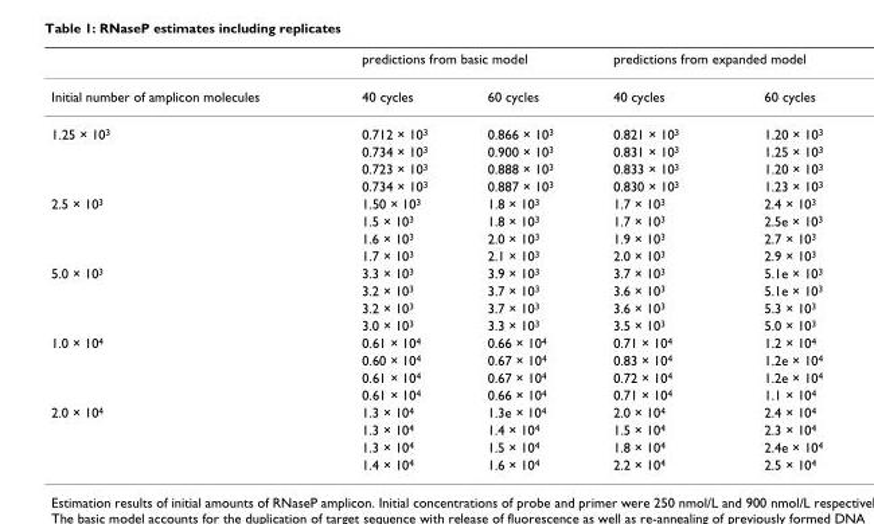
<table><thead><tr><td rowspan="2">Initial number of amplicon molecules</td><td colspan="2">predictions from basic model</td><td colspan="2">predictions from expanded model</td></tr><tr><td>40 cycles</td><td>60 cycles</td><td>40 cycles</td><td>60 cycles</td></tr></thead><tbody><tr><td rowspan="4">1.25 × 10<sup>3</sup></td><td>0.712 × 10<sup>3</sup></td><td>0.866 × 10<sup>3</sup></td><td>0.821 × 10<sup>3</sup></td><td>1.20 × 10<sup>3</sup></td></tr><tr><td>0.734 × 10<sup>3</sup></td><td>0.900 × 10<sup>3</sup></td><td>0.831 × 10<sup>3</sup></td><td>1.25 × 10<sup>3</sup></td></tr><tr><td>0.723 × 10<sup>3</sup></td><td>0.888 × 10<sup>3</sup></td><td>0.833 × 10<sup>3</sup></td><td>1.20 × 10<sup>3</sup></td></tr><tr><td>0.734 × 10<sup>3</sup></td><td>0.887 × 10<sup>3</sup></td><td>0.830 × 10<sup>3</sup></td><td>1.23 × 10<sup>3</sup></td></tr><tr><td rowspan="4">2.5 × 10<sup>3</sup></td><td>1.50 × 10<sup>3</sup></td><td>1.8 × 10<sup>3</sup></td><td>1.7 × 10<sup>3</sup></td><td>2.4 × 10<sup>3</sup></td></tr><tr><td>1.5 × 10<sup>3</sup></td><td>1.8 × 10<sup>3</sup></td><td>1.7 × 10<sup>3</sup></td><td>2.5e × 10<sup>3</sup></td></tr><tr><td>1.6 × 10<sup>3</sup></td><td>2.0 × 10<sup>3</sup></td><td>1.9 × 10<sup>3</sup></td><td>2.7 × 10<sup>3</sup></td></tr><tr><td>1.7 × 10<sup>3</sup></td><td>2.1 × 10<sup>3</sup></td><td>2.0 × 10<sup>3</sup></td><td>2.9 × 10<sup>3</sup></td></tr><tr><td rowspan="4">5.0 × 10<sup>3</sup></td><td>3.3 × 10<sup>3</sup></td><td>3.9 × 10<sup>3</sup></td><td>3.7 × 10<sup>3</sup></td><td>5.1e × 10<sup>3</sup></td></tr><tr><td>3.2 × 10<sup>3</sup></td><td>3.7 × 10<sup>3</sup></td><td>3.6 × 10<sup>3</sup></td><td>5.1e × 10<sup>3</sup></td></tr><tr><td>3.2 × 10<sup>3</sup></td><td>3.7 × 10<sup>3</sup></td><td>3.6 × 10<sup>3</sup></td><td>5.3 × 10<sup>3</sup></td></tr><tr><td>3.0 × 10<sup>3</sup></td><td>3.3 × 10<sup>3</sup></td><td>3.5 × 10<sup>3</sup></td><td>5.0 × 10<sup>3</sup></td></tr><tr><td rowspan="4">1.0 × 10<sup>4</sup></td><td>0.61 × 10<sup>4</sup></td><td>0.66 × 10<sup>4</sup></td><td>0.71 × 10<sup>4</sup></td><td>1.2 × 10<sup>4</sup></td></tr><tr><td>0.60 × 10<sup>4</sup></td><td>0.67 × 10<sup>4</sup></td><td>0.83 × 10<sup>4</sup></td><td>1.2e × 10<sup>4</sup></td></tr><tr><td>0.61 × 10<sup>4</sup></td><td>0.67 × 10<sup>4</sup></td><td>0.72 × 10<sup>4</sup></td><td>1.2e × 10<sup>4</sup></td></tr><tr><td>0.61 × 10<sup>4</sup></td><td>0.66 × 10<sup>4</sup></td><td>0.71 × 10<sup>4</sup></td><td>1.1 × 10<sup>4</sup></td></tr><tr><td rowspan="4">2.0 × 10<sup>4</sup></td><td>1.3 × 10<sup>4</sup></td><td>1.3e × 10<sup>4</sup></td><td>2.0 × 10<sup>4</sup></td><td>2.4 × 10<sup>4</sup></td></tr><tr><td>1.3 × 10<sup>4</sup></td><td>1.4 × 10<sup>4</sup></td><td>1.5 × 10<sup>4</sup></td><td>2.3 × 10<sup>4</sup></td></tr><tr><td>1.3 × 10<sup>4</sup></td><td>1.5 × 10<sup>4</sup></td><td>1.8 × 10<sup>4</sup></td><td>2.4e × 10<sup>4</sup></td></tr><tr><td>1.4 × 10<sup>4</sup></td><td>1.6 × 10<sup>4</sup></td><td>2.2 × 10<sup>4</sup></td><td>2.5 × 10<sup>4</sup></td></tr></tbody></table>